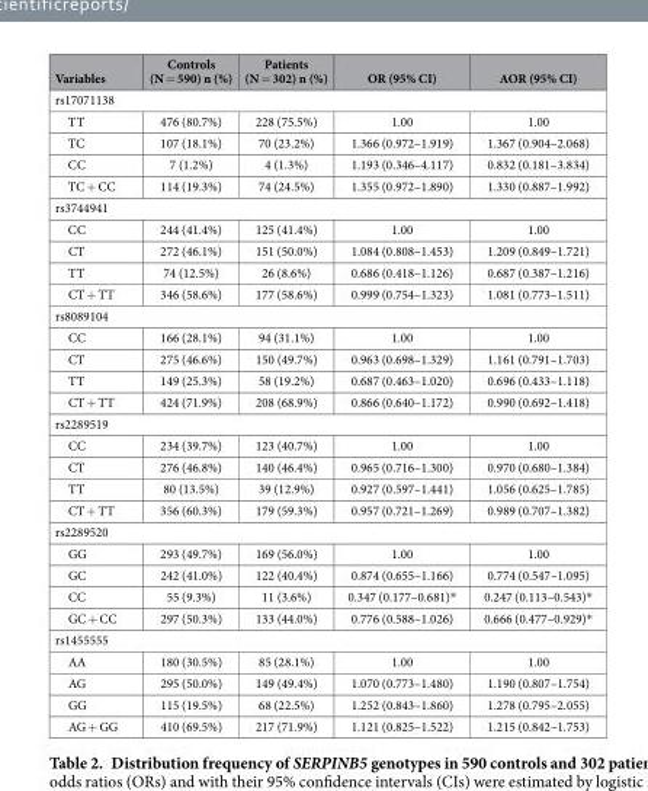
<table><thead><tr><td>Variables</td><td>Controls (N = 590) n (%)</td><td>Patients (N = 302) n (%)</td><td>OR (95% CI)</td><td>AOR (95% CI)</td></tr></thead><tbody><tr><td colspan="5">rs17071138</td></tr><tr><td>TT</td><td>476 (80.7%)</td><td>228 (75.5%)</td><td>1.00</td><td>1.00</td></tr><tr><td>TC</td><td>107 (18.1%)</td><td>70 (23.2%)</td><td>1.366 (0.972–1.919)</td><td>1.367 (0.904–2.068)</td></tr><tr><td>CC</td><td>7 (1.2%)</td><td>4 (1.3%)</td><td>1.193 (0.346–4.117)</td><td>0.832 (0.181–3.834)</td></tr><tr><td>TC + CC</td><td>114 (19.3%)</td><td>74 (24.5%)</td><td>1.355 (0.972–1.890)</td><td>1.330 (0.887–1.992)</td></tr><tr><td colspan="5">rs3744941</td></tr><tr><td>CC</td><td>244 (41.4%)</td><td>125 (41.4%)</td><td>1.00</td><td>1.00</td></tr><tr><td>CT</td><td>272 (46.1%)</td><td>151 (50.0%)</td><td>1.084 (0.808–1.453)</td><td>1.209 (0.849–1.721)</td></tr><tr><td>TT</td><td>74 (12.5%)</td><td>26 (8.6%)</td><td>0.686 (0.418–1.126)</td><td>0.687 (0.387–1.216)</td></tr><tr><td>CT + TT</td><td>346 (58.6%)</td><td>177 (58.6%)</td><td>0.999 (0.754–1.323)</td><td>1.081 (0.773–1.511)</td></tr><tr><td colspan="5">rs8089104</td></tr><tr><td>CC</td><td>166 (28.1%)</td><td>94 (31.1%)</td><td>1.00</td><td>1.00</td></tr><tr><td>CT</td><td>275 (46.6%)</td><td>150 (49.7%)</td><td>0.963 (0.698–1.329)</td><td>1.161 (0.791–1.703)</td></tr><tr><td>TT</td><td>149 (25.3%)</td><td>58 (19.2%)</td><td>0.687 (0.463–1.020)</td><td>0.696 (0.433–1.118)</td></tr><tr><td>CT + TT</td><td>424 (71.9%)</td><td>208 (68.9%)</td><td>0.866 (0.640–1.172)</td><td>0.990 (0.692–1.418)</td></tr><tr><td colspan="5">rs2289519</td></tr><tr><td>CC</td><td>234 (39.7%)</td><td>123 (40.7%)</td><td>1.00</td><td>1.00</td></tr><tr><td>CT</td><td>276 (46.8%)</td><td>140 (46.4%)</td><td>0.965 (0.716–1.300)</td><td>0.970 (0.680–1.384)</td></tr><tr><td>TT</td><td>80 (13.5%)</td><td>39 (12.9%)</td><td>0.927 (0.597–1.441)</td><td>1.056 (0.625–1.785)</td></tr><tr><td>CT + TT</td><td>356 (60.3%)</td><td>179 (59.3%)</td><td>0.957 (0.721–1.269)</td><td>0.989 (0.707–1.382)</td></tr><tr><td colspan="5">rs2289520</td></tr><tr><td>GG</td><td>293 (49.7%)</td><td>169 (56.0%)</td><td>1.00</td><td>1.00</td></tr><tr><td>GC</td><td>242 (41.0%)</td><td>122 (40.4%)</td><td>0.874 (0.655–1.166)</td><td>0.774 (0.547–1.095)</td></tr><tr><td>CC</td><td>55 (9.3%)</td><td>11 (3.6%)</td><td>0.347 (0.177–0.681)*</td><td>0.247 (0.113–0.543)*</td></tr><tr><td>GC + CC</td><td>297 (50.3%)</td><td>133 (44.0%)</td><td>0.776 (0.588–1.026)</td><td>0.666 (0.477–0.929)*</td></tr><tr><td colspan="5">rs1455555</td></tr><tr><td>AA</td><td>180 (30.5%)</td><td>85 (28.1%)</td><td>1.00</td><td>1.00</td></tr><tr><td>AG</td><td>295 (50.0%)</td><td>149 (49.4%)</td><td>1.070 (0.773–1.480)</td><td>1.190 (0.807–1.754)</td></tr><tr><td>GG</td><td>115 (19.5%)</td><td>68 (22.5%)</td><td>1.252 (0.843–1.860)</td><td>1.278 (0.795–2.055)</td></tr><tr><td>AG + GG</td><td>410 (69.5%)</td><td>217 (71.9%)</td><td>1.121 (0.825–1.522)</td><td>1.215 (0.842–1.753)</td></tr></tbody></table>